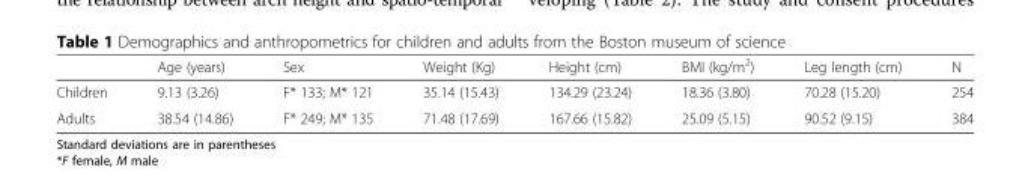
<table><thead><tr><td></td><td>Age (years)</td><td>Sex</td><td>Weight (Kg)</td><td>Height (cm)</td><td>BMI (kg/m<sup>2</sup>)</td><td>Leg length (cm)</td><td>N</td></tr></thead><tbody><tr><td>Children</td><td>9.13 (3.26)</td><td>F* 133; M* 121</td><td>35.14 (15.43)</td><td>134.29 (23.24)</td><td>18.36 (3.80)</td><td>70.28 (15.20)</td><td>254</td></tr><tr><td>Adults</td><td>38.54 (14.86)</td><td>F* 249; M* 135</td><td>71.48 (17.69)</td><td>167.66 (15.82)</td><td>25.09 (5.15)</td><td>90.52 (9.15)</td><td>384</td></tr></tbody></table>